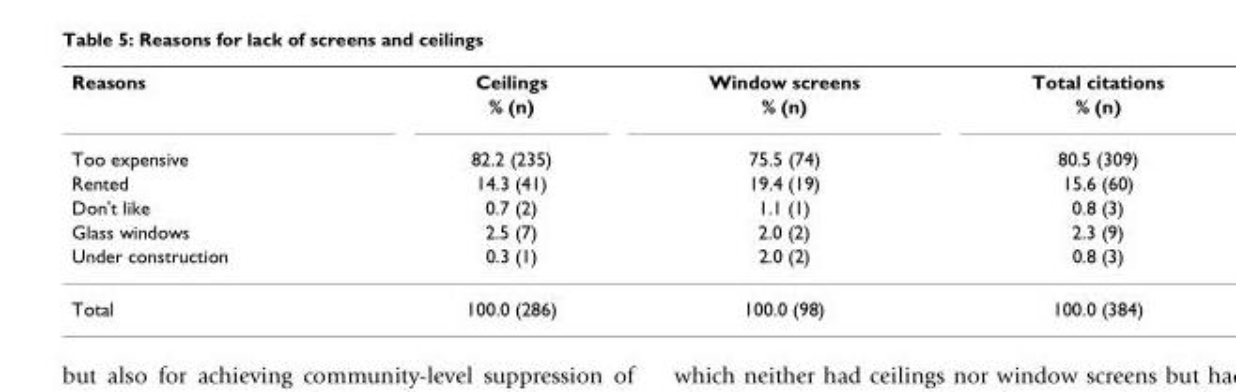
<table><thead><tr><td rowspan="7">Reasons Too expensive Rented Don&#x27;t like Glass windows Under construction</td><td rowspan="7">Ceilings % (n) 82.2 (235) 14.3 (41) 0.7 (2) 2.5 (7) 0.3 (1)</td><td rowspan="7">Window screens % (n) 75.5 (74) 19.4 (19) 1.1 (1) 2.0 (2) 2.0 (2)</td><td rowspan="7">Total citations % (n) 80.5 (309) 15.6 (60) 0.8 (3) 2.3 (9) 0.8 (3)</td></tr><tr></tr><tr></tr><tr></tr><tr></tr><tr></tr><tr></tr></thead><tbody><tr><td>Total</td><td>100.0 (286)</td><td>100.0 (98)</td><td>100.0 (384)</td></tr></tbody></table>